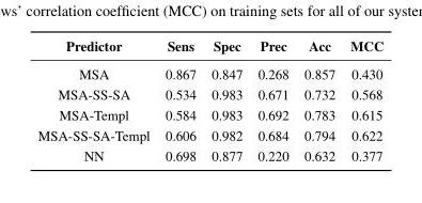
<table><thead><tr><td>Predictor</td><td>Sens</td><td>Spec</td><td>Prec</td><td>Acc</td><td>MCC</td></tr></thead><tbody><tr><td>MSA</td><td>0.867</td><td>0.847</td><td>0.268</td><td>0.857</td><td>0.430</td></tr><tr><td>MSA-SS-SA</td><td>0.534</td><td>0.983</td><td>0.671</td><td>0.732</td><td>0.568</td></tr><tr><td>MSA-Templ</td><td>0.584</td><td>0.983</td><td>0.692</td><td>0.783</td><td>0.615</td></tr><tr><td>MSA-SS-SA-Templ</td><td>0.606</td><td>0.982</td><td>0.684</td><td>0.794</td><td>0.622</td></tr><tr><td>NN</td><td>0.698</td><td>0.877</td><td>0.220</td><td>0.632</td><td>0.377</td></tr></tbody></table>